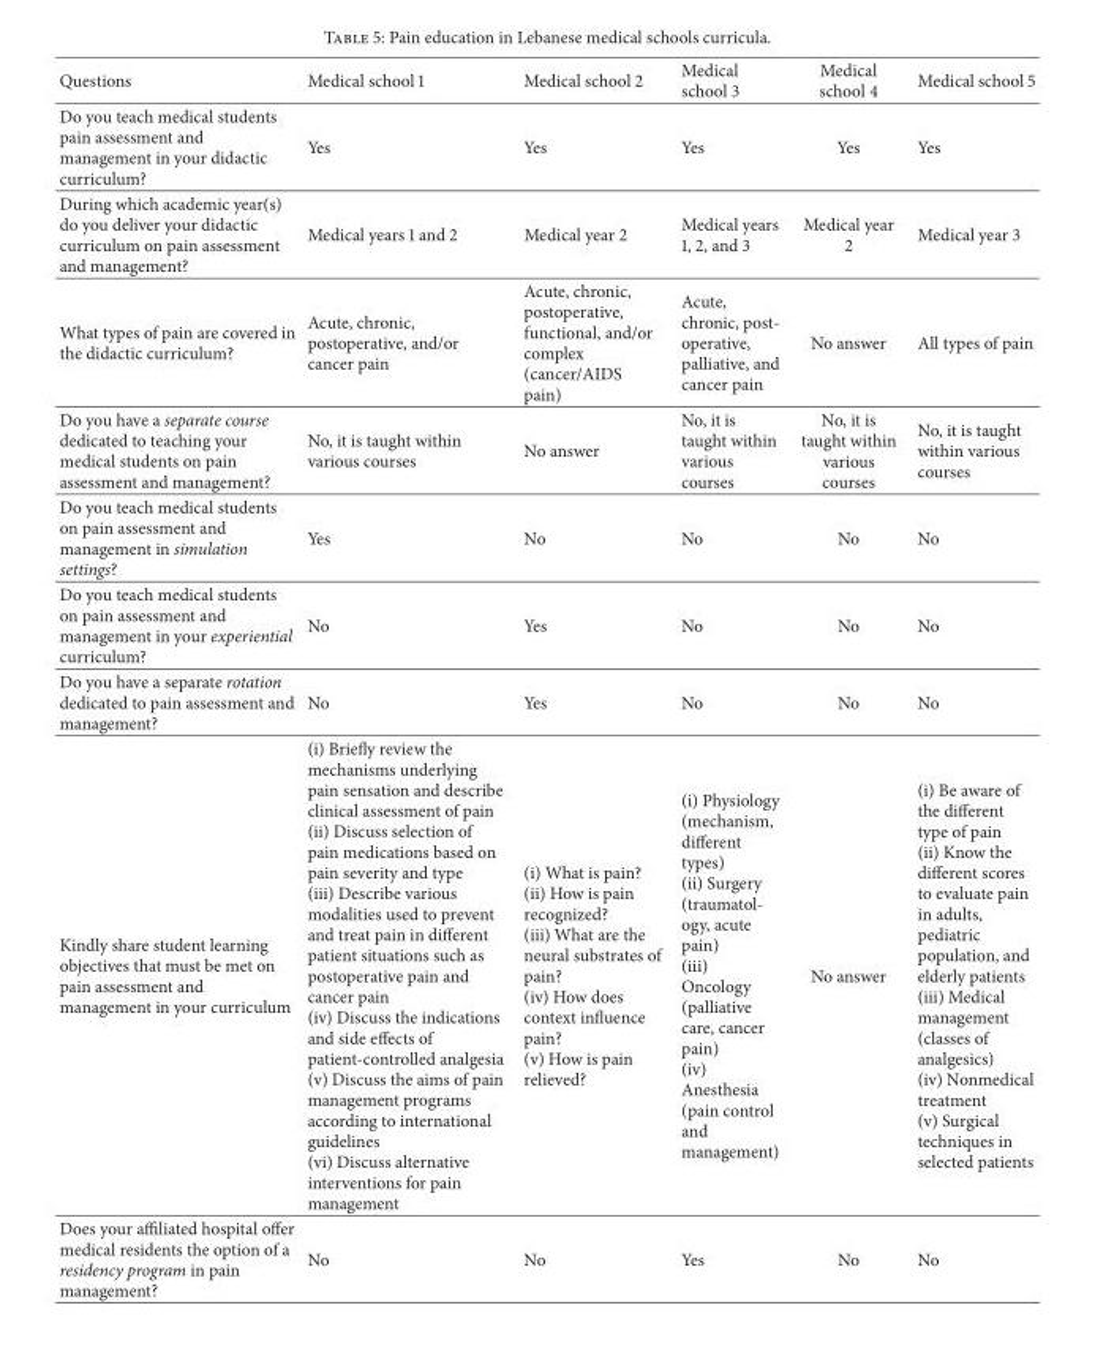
<table><thead><tr><td>Questions</td><td>Medical school 1</td><td>Medical school 2</td><td>Medical school 3</td><td>Medical school 4</td><td>Medical school 5</td></tr></thead><tbody><tr><td>Do you teach medical students pain assessment and management in your didactic curriculum?</td><td>Yes</td><td>Yes</td><td>Yes</td><td>Yes</td><td>Yes</td></tr><tr><td>During which academic year(s) do you deliver your didactic curriculum on pain assessment and management?</td><td>Medical years 1 and 2</td><td>Medical year 2</td><td>Medical years 1, 2, and 3</td><td>Medical year 2</td><td>Medical year 3</td></tr><tr><td>What types of pain are covered in the didactic curriculum?</td><td>Acute, chronic, postoperative, and/or cancer pain</td><td>Acute, chronic, postoperative, functional, and/or complex (cancer/AIDS pain)</td><td>Acute, chronic, post- operative, palliative, and cancer pain</td><td>No answer</td><td>All types of pain</td></tr><tr><td>Do you have a separate course dedicated to teaching your medical students on pain assessment and management?</td><td>No, it is taught within various courses</td><td>No answer</td><td>No, it is taught within various courses</td><td>No, it is taught within various courses</td><td>No, it is taught within various courses</td></tr><tr><td>Do you teach medical students on pain assessment and management in simulation settings?</td><td>Yes</td><td>No</td><td>No</td><td>No</td><td>No</td></tr><tr><td>Do you teach medical students on pain assessment and management in your experiential curriculum?</td><td>No</td><td>Yes</td><td>No</td><td>No</td><td>No</td></tr><tr><td>Do you have a separate rotation dedicated to pain assessment and management?</td><td>No</td><td>Yes</td><td>No</td><td>No</td><td>No</td></tr><tr><td>Kindly share student learning objectives that must be met on pain assessment and management in your curriculum</td><td>(i) Briefly review the mechanisms underlying pain sensation and describe clinical assessment of pain (ii) Discuss selection of pain medications based on pain severity and type (iii) Describe various modalities used to prevent and treat pain in different patient situations such as postoperative pain and cancer pain (iv) Discuss the indications and side effects of patient-controlled analgesia (v) Discuss the aims of pain management programs according to international guidelines (vi) Discuss alternative interventions for pain management</td><td>(i) What is pain? (ii) How is pain recognized? (iii) What are the neural substrates of pain? (iv) How does context influence pain? (v) How is pain relieved?</td><td>(i) Physiology (mechanism, different types) (ii) Surgery (traumatol- ogy, acute pain) (iii) Oncology (palliative care, cancer pain) (iv) Anesthesia (pain control and management)</td><td>No answer</td><td>(i) Be aware of the different type of pain (ii) Know the different scores to evaluate pain in adults, pediatric population, and elderly patients (iii) Medical management (classes of analgesics) (iv) Nonmedical treatment (v) Surgical techniques in selected patients</td></tr><tr><td>Does your affiliated hospital offer medical residents the option of a residency program in pain management?</td><td>No</td><td>No</td><td>Yes</td><td>No</td><td>No</td></tr></tbody></table>